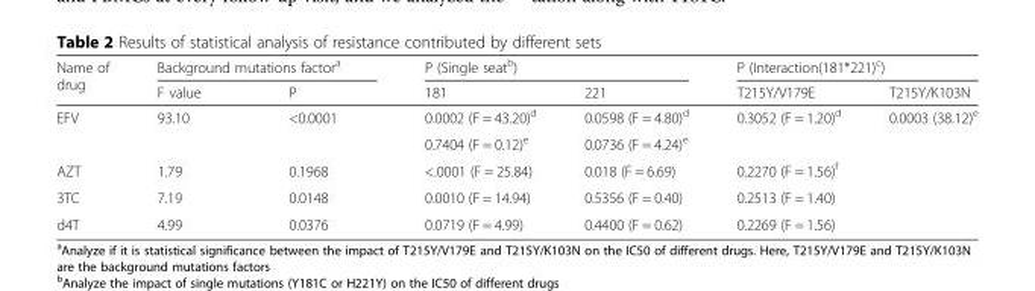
<table><thead><tr><td rowspan="2">Name of drug</td><td colspan="2">Background mutations factor<sup>a</sup></td><td colspan="2">P (Single seat<sup>b</sup>)</td><td colspan="2">P (Interaction(181*221)<sup>c</sup>)</td></tr><tr><td>F value</td><td>P</td><td>181</td><td>221</td><td>T215Y/V179E</td><td>T215Y/K103N</td></tr></thead><tbody><tr><td rowspan="2">EFV</td><td rowspan="2">93.10</td><td rowspan="2">&lt;0.0001</td><td>0.0002 (F = 43.20)<sup>d</sup></td><td>0.0598 (F = 4.80)<sup>d</sup></td><td rowspan="2">0.3052 (F = 1.20)<sup>d</sup></td><td rowspan="2">0.0003 (38.12)<sup>e</sup></td></tr><tr><td>0.7404 (F = 0.12)<sup>e</sup></td><td>0.0736 (F = 4.24)<sup>e</sup></td></tr><tr><td>AZT</td><td>1.79</td><td>0.1968</td><td>&lt;.0001 (F = 25.84)</td><td>0.018 (F = 6.69)</td><td colspan="2">0.2270 (F = 1.56)<sup>f</sup></td></tr><tr><td>3TC</td><td>7.19</td><td>0.0148</td><td>0.0010 (F = 14.94)</td><td>0.5356 (F = 0.40)</td><td colspan="2">0.2513 (F = 1.40)</td></tr><tr><td>d4T</td><td>4.99</td><td>0.0376</td><td>0.0719 (F = 4.99)</td><td>0.4400 (F = 0.62)</td><td colspan="2">0.2269 (F = 1.56)</td></tr></tbody></table>